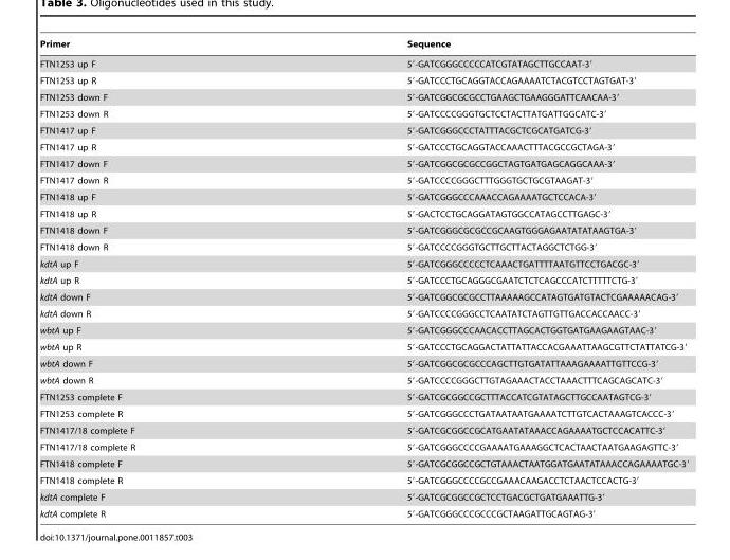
<table><thead><tr><td>Primer</td><td>Sequence</td></tr></thead><tbody><tr><td>FTN1253 up F</td><td>5′-GATCGGGCCCCCATCGTATAGCTTGCCAAT-3′</td></tr><tr><td>FTN1253 up R</td><td>5′-GATCCCTGCAGGTACCAGAAAATCTACGTCCTAGTGAT-3′</td></tr><tr><td>FTN1253 down F</td><td>5′-GATCGGCGCGCCTGAAGCTGAAGGGATTCAACAA-3′</td></tr><tr><td>FTN1253 down R</td><td>5′-GATCCCCGGGTGCTCCTACTTATGATTGGCATC-3′</td></tr><tr><td>FTN1417 up F</td><td>5′-GATCGGGCCCTATTTACGCTCGCATGATCG-3′</td></tr><tr><td>FTN1417 up R</td><td>5′-GATCCCTGCAGGTACCAAACTTTACGCCGCTAGA-3′</td></tr><tr><td>FTN1417 down F</td><td>5′-GATCGGCGCGCCGGCTAGTGATGAGCAGGCAAA-3′</td></tr><tr><td>FTN1417 down R</td><td>5′-GATCCCCGGGCTTTGGGTGCTGCGTAAGAT-3′</td></tr><tr><td>FTN1418 up F</td><td>5′-GATCGGGCCCAAACCAGAAAATGCTCCACA-3′</td></tr><tr><td>FTN1418 up R</td><td>5′-GACTCCTGCAGGATAGTGGCCATAGCCTTGAGC-3′</td></tr><tr><td>FTN1418 down F</td><td>5′-GATCGGGCGCGCCGCAAGTGGGAGAATATATAAGTGA-3′</td></tr><tr><td>FTN1418 down R</td><td>5′-GATCCCCGGGTGCTTGCTTACTAGGCTCTGG-3′</td></tr><tr><td>kdtA up F</td><td>5′-GATCGGGCCCCCTCAAACTGATTTTAATGTTCCTGACGC-3′</td></tr><tr><td>kdtA up R</td><td>5′-GATCCCTGCAGGGCGAATCTCTCAGCCCATCTTTTTCTG-3′</td></tr><tr><td>kdtA down F</td><td>5′-GATCGGCGCGCCTTAAAAAGCCATAGTGATGTACTCGAAAAACAG-3′</td></tr><tr><td>kdtA down R</td><td>5′-GATCCCCGGGCCTCAATATCTAGTTGTTGACCACCAACC-3′</td></tr><tr><td>wbtA up F</td><td>5′-GATCGGGCCCAACACCTTAGCACTGGTGATGAAGAAGTAAC-3′</td></tr><tr><td>wbtA up R</td><td>5′-GATCCCTGCAGGACTATTATTACCACGAAATTAAGCGTTCTATTATCG-3′</td></tr><tr><td>wbtA down F</td><td>5′-GATCGGCGCGCCCAGCTTGTGATATTAAAGAAAATTGTTCCG-3′</td></tr><tr><td>wbtA down R</td><td>5′-GATCCCCGGGCTTGTAGAAACTACCTAAACTTTCAGCAGCATC-3′</td></tr><tr><td>FTN1253 complete F</td><td>5′-GATCGCGGCCGCTTTACCATCGTATAGCTTGCCAATAGTCG-3′</td></tr><tr><td>FTN1253 complete R</td><td>5′-GATCGGGCCCTGATAATAATGAAAATCTTGTCACTAAAGTCACCC-3′</td></tr><tr><td>FTN1417/18 complete F</td><td>5′-GATCGCGGCCGCATGAATATAAACCAGAAAATGCTCCACATTC-3′</td></tr><tr><td>FTN1417/18 complete R</td><td>5′-GATCGGGCCCCGAAAATGAAAGGCTCACTAACTAATGAAGAGTTC-3′</td></tr><tr><td>FTN1418 complete F</td><td>5′-GATCGCGGCCGCTGTAAACTAATGGATGAATATAAACCAGAAAATGC-3′</td></tr><tr><td>FTN1418 complete R</td><td>5′-GATCGGGCCCCGCCGAAACAAGACCTCTAACTCCACTG-3′</td></tr><tr><td>kdtA complete F</td><td>5′-GATCGCGGCCGCTCCTGACGCTGATGAAATTG-3′</td></tr><tr><td>kdtA complete R</td><td>5′-GATCGGGCCCGCCCGCTAAGATTGCAGTAG-3′</td></tr></tbody></table>